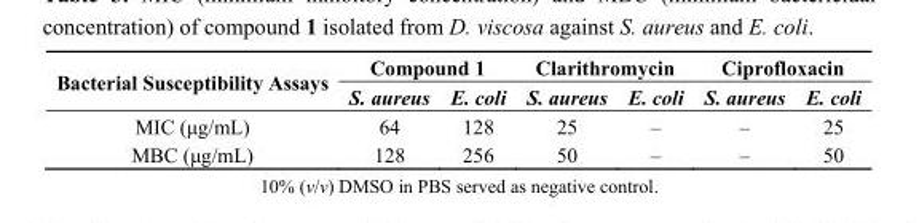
<table><thead><tr><td rowspan="2">Bacterial Susceptibility Assays</td><td colspan="2">Compound 1</td><td colspan="2">Clarithromycin</td><td colspan="2">Ciprofloxacin</td></tr><tr><td>S. aureus</td><td>E. coli</td><td>S. aureus</td><td>E. coli</td><td>S. aureus</td><td>E. coli</td></tr></thead><tbody><tr><td>MIC (μg/mL)</td><td>64</td><td>128</td><td>25</td><td>–</td><td>–</td><td>25</td></tr><tr><td>MBC (μg/mL)</td><td>128</td><td>256</td><td>50</td><td>–</td><td>–</td><td>50</td></tr></tbody></table>